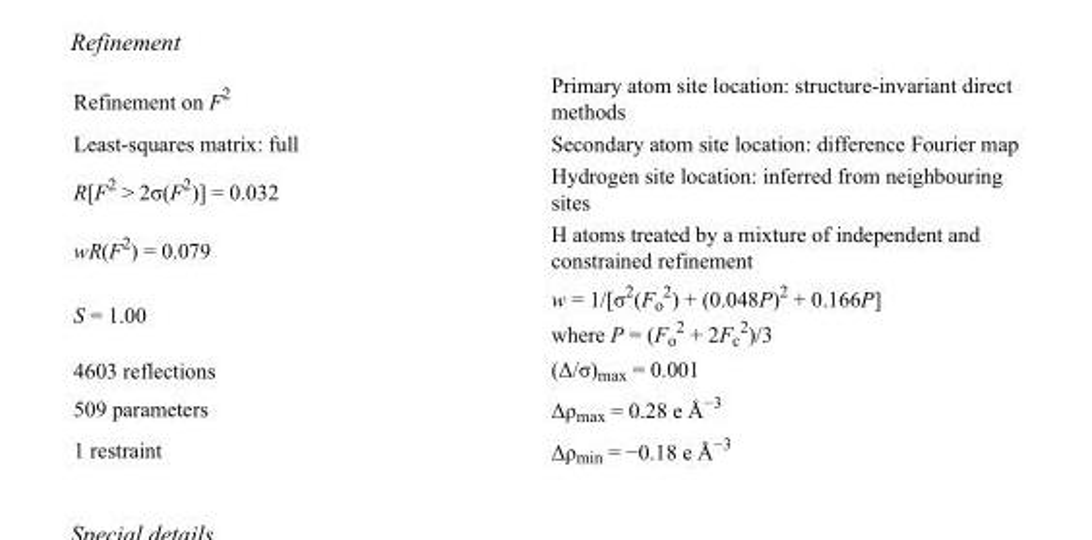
<table><tbody><tr><td>Refinement on F<sup>2</sup></td><td>Primary atom site location: structure-invariant direct methods</td></tr><tr><td>Least-squares matrix: full</td><td>Secondary atom site location: difference Fourier map</td></tr><tr><td>R[F<sup>2</sup> &gt; 2σ(F<sup>2</sup>)] = 0.032</td><td>Hydrogen site location: inferred from neighbouring sites</td></tr><tr><td>wR(F<sup>2</sup>) = 0.079</td><td>H atoms treated by a mixture of independent and constrained refinement</td></tr><tr><td>S = 1.00</td><td>w = 1/[σ<sup>2</sup>(F<sub>o</sub> <sup>2</sup>) + (0.048P)<sup>2</sup> + 0.166P] where P = (F<sub>o</sub> <sup>2</sup> + 2F<sub>c</sub> <sup>2</sup>)/3</td></tr><tr><td>4603 reflections</td><td>(Δ/σ)<sub>max</sub> = 0.001</td></tr><tr><td>509 parameters</td><td>Δρ<sub>max</sub> = 0.28 e Å<sup>−3</sup></td></tr><tr><td>1 restraint</td><td>Δρ<sub>min</sub> = −0.18 e Å<sup>−3</sup></td></tr></tbody></table>